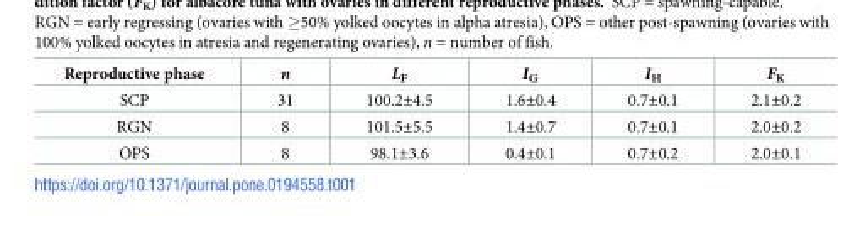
<table><thead><tr><td>Reproductive phase</td><td>n</td><td>L<sub>F</sub></td><td>I<sub>G</sub></td><td>I<sub>H</sub></td><td>F<sub>K</sub></td></tr></thead><tbody><tr><td>SCP</td><td>31</td><td>100.2±4.5</td><td>1.6±0.4</td><td>0.7±0.1</td><td>2.1±0.2</td></tr><tr><td>RGN</td><td>8</td><td>101.5±5.5</td><td>1.4±0.7</td><td>0.7±0.1</td><td>2.0±0.2</td></tr><tr><td>OPS</td><td>8</td><td>98.1±3.6</td><td>0.4±0.1</td><td>0.7±0.2</td><td>2.0±0.1</td></tr></tbody></table>